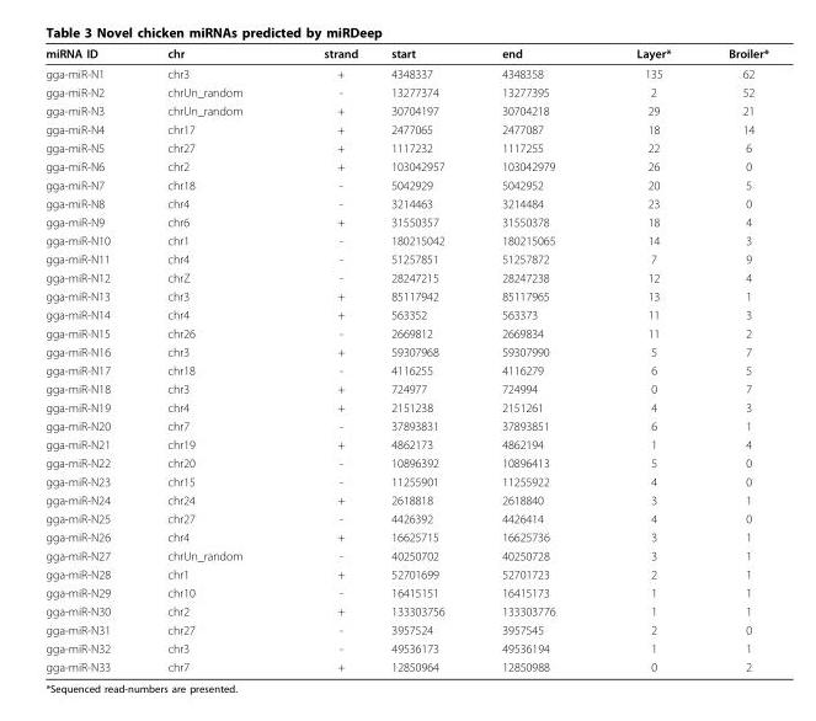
<table><thead><tr><td>miRNA ID</td><td>chr</td><td>strand</td><td>start</td><td>end</td><td>Layer*</td><td>Broiler*</td></tr></thead><tbody><tr><td>gga-miR-N1</td><td>chr3</td><td>+</td><td>4348337</td><td>4348358</td><td>135</td><td>62</td></tr><tr><td>gga-miR-N2</td><td>chrUn_random</td><td>-</td><td>13277374</td><td>13277395</td><td>2</td><td>52</td></tr><tr><td>gga-miR-N3</td><td>chrUn_random</td><td>+</td><td>30704197</td><td>30704218</td><td>29</td><td>21</td></tr><tr><td>gga-miR-N4</td><td>chr17</td><td>+</td><td>2477065</td><td>2477087</td><td>18</td><td>14</td></tr><tr><td>gga-miR-N5</td><td>chr27</td><td>+</td><td>1117232</td><td>1117255</td><td>22</td><td>6</td></tr><tr><td>gga-miR-N6</td><td>chr2</td><td>+</td><td>103042957</td><td>103042979</td><td>26</td><td>0</td></tr><tr><td>gga-miR-N7</td><td>chr18</td><td>-</td><td>5042929</td><td>5042952</td><td>20</td><td>5</td></tr><tr><td>gga-miR-N8</td><td>chr4</td><td>-</td><td>3214463</td><td>3214484</td><td>23</td><td>0</td></tr><tr><td>gga-miR-N9</td><td>chr6</td><td>+</td><td>31550357</td><td>31550378</td><td>18</td><td>4</td></tr><tr><td>gga-miR-N10</td><td>chr1</td><td>-</td><td>180215042</td><td>180215065</td><td>14</td><td>3</td></tr><tr><td>gga-miR-N11</td><td>chr4</td><td>-</td><td>51257851</td><td>51257872</td><td>7</td><td>9</td></tr><tr><td>gga-miR-N12</td><td>chrZ</td><td>-</td><td>28247215</td><td>28247238</td><td>12</td><td>4</td></tr><tr><td>gga-miR-N13</td><td>chr3</td><td>+</td><td>85117942</td><td>85117965</td><td>13</td><td>1</td></tr><tr><td>gga-miR-N14</td><td>chr4</td><td>+</td><td>563352</td><td>563373</td><td>11</td><td>3</td></tr><tr><td>gga-miR-N15</td><td>chr26</td><td>-</td><td>2669812</td><td>2669834</td><td>11</td><td>2</td></tr><tr><td>gga-miR-N16</td><td>chr3</td><td>+</td><td>59307968</td><td>59307990</td><td>5</td><td>7</td></tr><tr><td>gga-miR-N17</td><td>chr18</td><td>-</td><td>4116255</td><td>4116279</td><td>6</td><td>5</td></tr><tr><td>gga-miR-N18</td><td>chr3</td><td>+</td><td>724977</td><td>724994</td><td>0</td><td>7</td></tr><tr><td>gga-miR-N19</td><td>chr4</td><td>+</td><td>2151238</td><td>2151261</td><td>4</td><td>3</td></tr><tr><td>gga-miR-N20</td><td>chr7</td><td>-</td><td>37893831</td><td>37893851</td><td>6</td><td>1</td></tr><tr><td>gga-miR-N21</td><td>chr19</td><td>+</td><td>4862173</td><td>4862194</td><td>1</td><td>4</td></tr><tr><td>gga-miR-N22</td><td>chr20</td><td>-</td><td>10896392</td><td>10896413</td><td>5</td><td>0</td></tr><tr><td>gga-miR-N23</td><td>chr15</td><td>-</td><td>11255901</td><td>11255922</td><td>4</td><td>0</td></tr><tr><td>gga-miR-N24</td><td>chr24</td><td>+</td><td>2618818</td><td>2618840</td><td>3</td><td>1</td></tr><tr><td>gga-miR-N25</td><td>chr27</td><td>-</td><td>4426392</td><td>4426414</td><td>4</td><td>0</td></tr><tr><td>gga-miR-N26</td><td>chr4</td><td>+</td><td>16625715</td><td>16625736</td><td>3</td><td>1</td></tr><tr><td>gga-miR-N27</td><td>chrUn_random</td><td>-</td><td>40250702</td><td>40250728</td><td>3</td><td>1</td></tr><tr><td>gga-miR-N28</td><td>chr1</td><td>+</td><td>52701699</td><td>52701723</td><td>2</td><td>1</td></tr><tr><td>gga-miR-N29</td><td>chr10</td><td>-</td><td>16415151</td><td>16415173</td><td>1</td><td>1</td></tr><tr><td>gga-miR-N30</td><td>chr2</td><td>+</td><td>133303756</td><td>133303776</td><td>1</td><td>1</td></tr><tr><td>gga-miR-N31</td><td>chr27</td><td>-</td><td>3957524</td><td>3957545</td><td>2</td><td>0</td></tr><tr><td>gga-miR-N32</td><td>chr3</td><td>-</td><td>49536173</td><td>49536194</td><td>1</td><td>1</td></tr><tr><td>gga-miR-N33</td><td>chr7</td><td>+</td><td>12850964</td><td>12850988</td><td>0</td><td>2</td></tr></tbody></table>